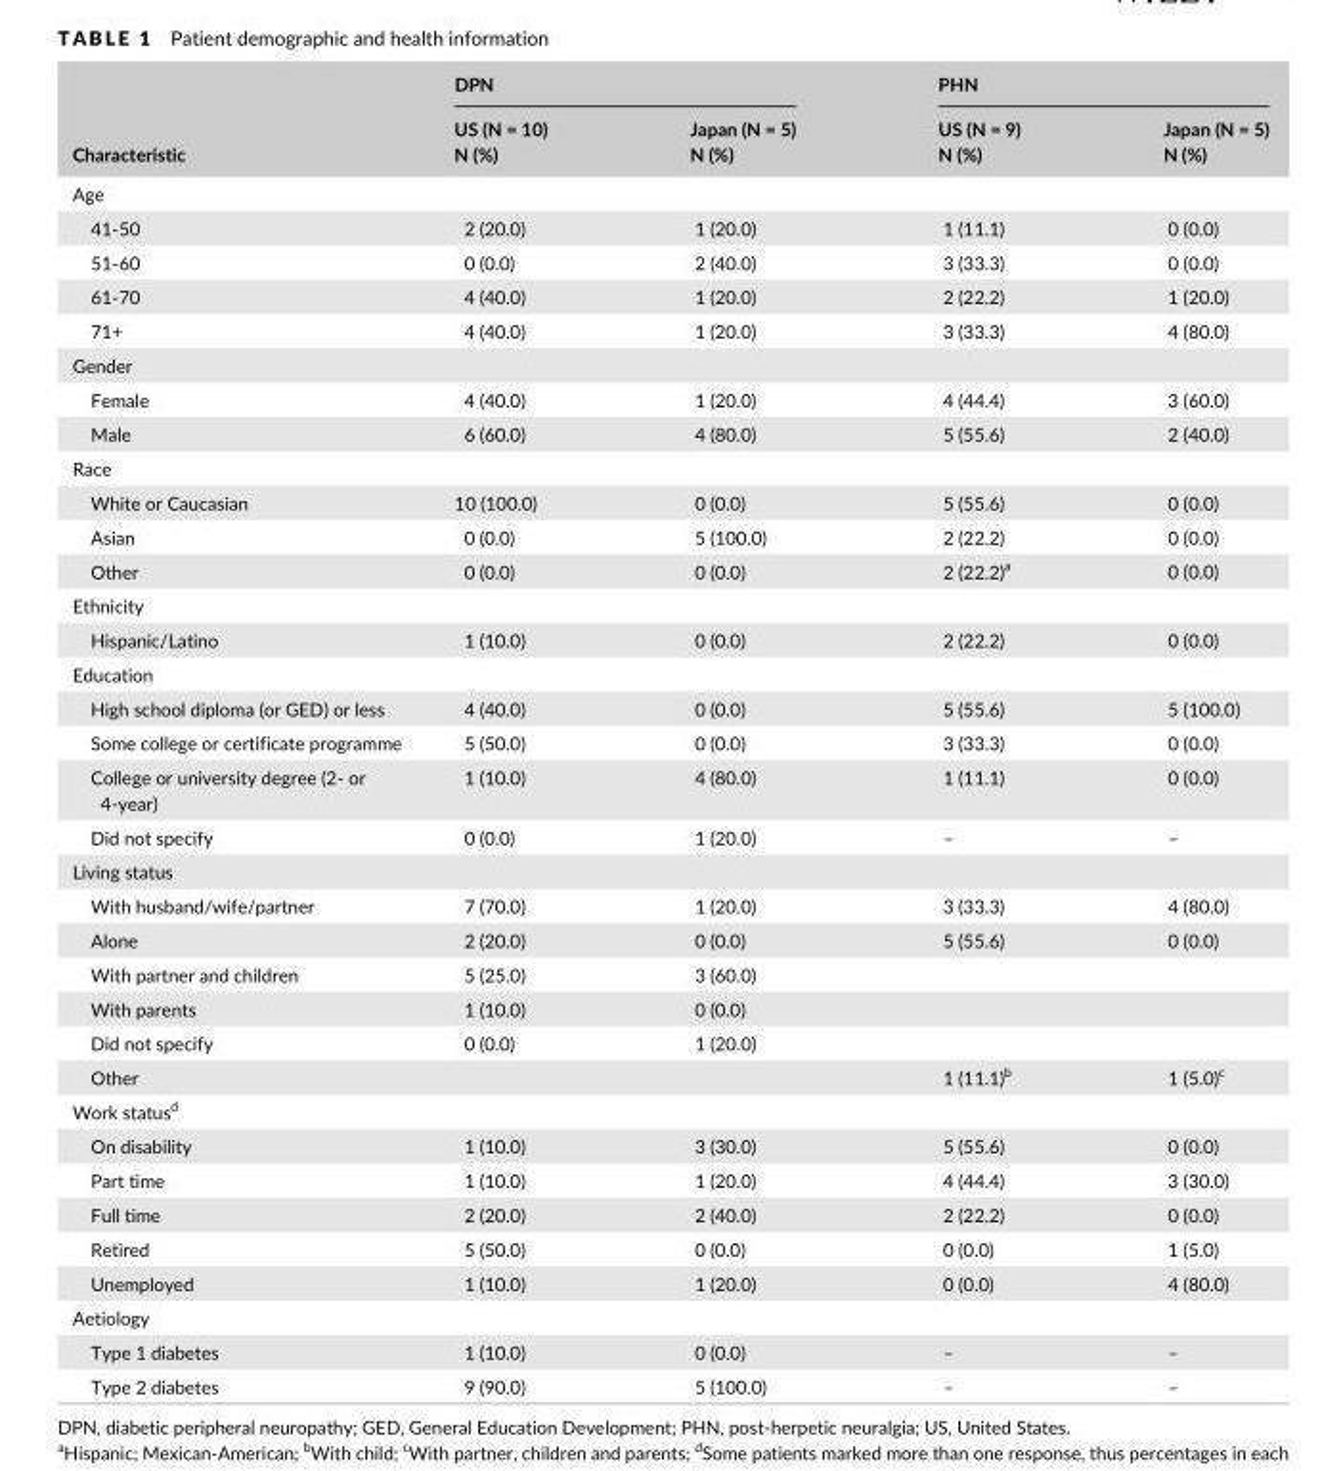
<table><thead><tr><td rowspan="2">Characteristic</td><td colspan="2">DPN</td><td colspan="2">PHN</td></tr><tr><td>US (N = 10) N (%)</td><td>Japan (N = 5) N (%)</td><td>US (N = 9) N (%)</td><td>Japan (N = 5) N (%)</td></tr></thead><tbody><tr><td colspan="5">Age</td></tr><tr><td>41- 50</td><td>2 (20.0)</td><td>1 (20.0)</td><td>1 (11.1)</td><td>0 (0.0)</td></tr><tr><td>51- 60</td><td>0 (0.0)</td><td>2 (40.0)</td><td>3 (33.3)</td><td>0 (0.0)</td></tr><tr><td>61- 70</td><td>4 (40.0)</td><td>1 (20.0)</td><td>2 (22.2)</td><td>1 (20.0)</td></tr><tr><td>71+</td><td>4 (40.0)</td><td>1 (20.0)</td><td>3 (33.3)</td><td>4 (80.0)</td></tr><tr><td colspan="5">Gender</td></tr><tr><td>Female</td><td>4 (40.0)</td><td>1 (20.0)</td><td>4 (44.4)</td><td>3 (60.0)</td></tr><tr><td>Male</td><td>6 (60.0)</td><td>4 (80.0)</td><td>5 (55.6)</td><td>2 (40.0)</td></tr><tr><td colspan="5">Race</td></tr><tr><td>White or Caucasian</td><td>10 (100.0)</td><td>0 (0.0)</td><td>5 (55.6)</td><td>0 (0.0)</td></tr><tr><td>Asian</td><td>0 (0.0)</td><td>5 (100.0)</td><td>2 (22.2)</td><td>0 (0.0)</td></tr><tr><td>Other</td><td>0 (0.0)</td><td>0 (0.0)</td><td>2 (22.2)<sup>a</sup></td><td>0 (0.0)</td></tr><tr><td colspan="5">Ethnicity</td></tr><tr><td>Hispanic/Latino</td><td>1 (10.0)</td><td>0 (0.0)</td><td>2 (22.2)</td><td>0 (0.0)</td></tr><tr><td colspan="5">Education</td></tr><tr><td>High school diploma (or GED) or less</td><td>4 (40.0)</td><td>0 (0.0)</td><td>5 (55.6)</td><td>5 (100.0)</td></tr><tr><td>Some college or certificate programme</td><td>5 (50.0)</td><td>0 (0.0)</td><td>3 (33.3)</td><td>0 (0.0)</td></tr><tr><td>College or university degree (2- or 4- year)</td><td>1 (10.0)</td><td>4 (80.0)</td><td>1 (11.1)</td><td>0 (0.0)</td></tr><tr><td>Did not specify</td><td>0 (0.0)</td><td>1 (20.0)</td><td>–</td><td>–</td></tr><tr><td colspan="5">Living status</td></tr><tr><td>With husband/wife/partner</td><td>7 (70.0)</td><td>1 (20.0)</td><td>3 (33.3)</td><td>4 (80.0)</td></tr><tr><td>Alone</td><td>2 (20.0)</td><td>0 (0.0)</td><td>5 (55.6)</td><td>0 (0.0)</td></tr><tr><td>With partner and children</td><td>5 (25.0)</td><td>3 (60.0)</td><td></td><td></td></tr><tr><td>With parents</td><td>1 (10.0)</td><td>0 (0.0)</td><td></td><td></td></tr><tr><td>Did not specify</td><td>0 (0.0)</td><td>1 (20.0)</td><td></td><td></td></tr><tr><td>Other</td><td></td><td></td><td>1 (11.1)<sup>b</sup></td><td>1 (5.0)<sup>c</sup></td></tr><tr><td colspan="5">Work status<sup>d</sup></td></tr><tr><td>On disability</td><td>1 (10.0)</td><td>3 (30.0)</td><td>5 (55.6)</td><td>0 (0.0)</td></tr><tr><td>Part time</td><td>1 (10.0)</td><td>1 (20.0)</td><td>4 (44.4)</td><td>3 (30.0)</td></tr><tr><td>Full time</td><td>2 (20.0)</td><td>2 (40.0)</td><td>2 (22.2)</td><td>0 (0.0)</td></tr><tr><td>Retired</td><td>5 (50.0)</td><td>0 (0.0)</td><td>0 (0.0)</td><td>1 (5.0)</td></tr><tr><td>Unemployed</td><td>1 (10.0)</td><td>1 (20.0)</td><td>0 (0.0)</td><td>4 (80.0)</td></tr><tr><td colspan="5">Aetiology</td></tr><tr><td>Type 1 diabetes</td><td>1 (10.0)</td><td>0 (0.0)</td><td>–</td><td>–</td></tr><tr><td>Type 2 diabetes</td><td>9 (90.0)</td><td>5 (100.0)</td><td>–</td><td>–</td></tr></tbody></table>